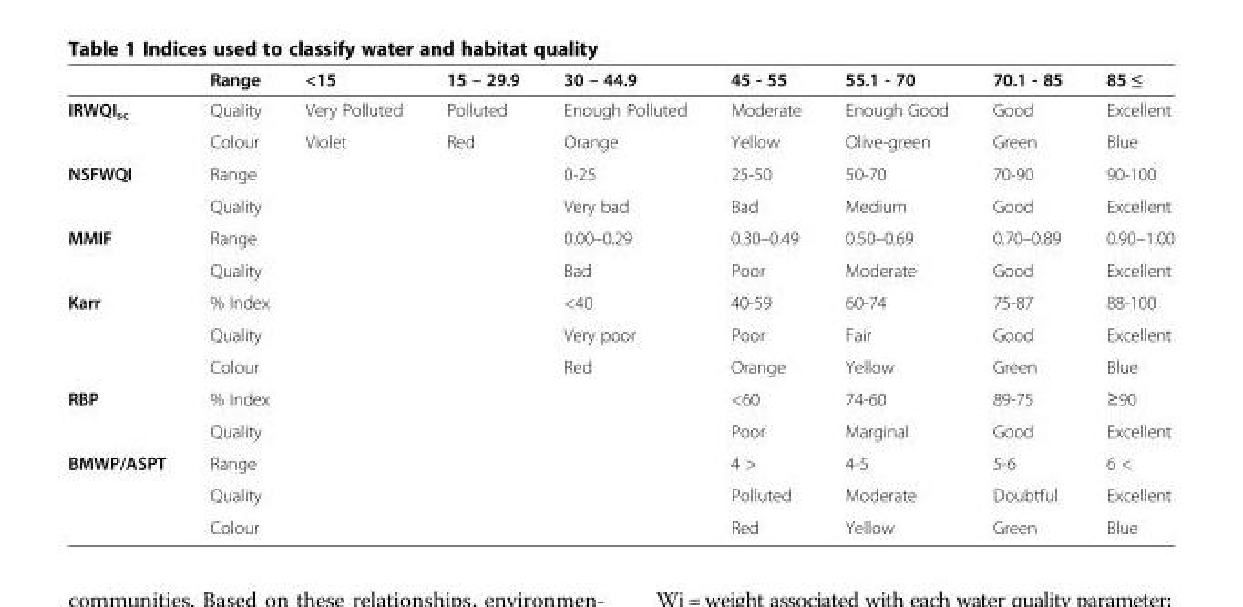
<table><thead><tr><td></td><td>Range</td><td>&lt;15</td><td>15 – 29.9</td><td>30 – 44.9</td><td>45 - 55</td><td>55.1 - 70</td><td>70.1 - 85</td><td>85 ≤</td></tr></thead><tbody><tr><td rowspan="2">IRWQI<sub>sc</sub></td><td>Quality</td><td>Very Polluted</td><td>Polluted</td><td>Enough Polluted</td><td>Moderate</td><td>Enough Good</td><td>Good</td><td>Excellent</td></tr><tr><td>Colour</td><td>Violet</td><td>Red</td><td>Orange</td><td>Yellow</td><td>Olive-green</td><td>Green</td><td>Blue</td></tr><tr><td rowspan="2">NSFWQI</td><td colspan="3">Range</td><td>0-25</td><td>25-50</td><td>50-70</td><td>70-90</td><td>90-100</td></tr><tr><td colspan="3">Quality</td><td>Very bad</td><td>Bad</td><td>Medium</td><td>Good</td><td>Excellent</td></tr><tr><td rowspan="2">MMIF</td><td colspan="3">Range</td><td>0.00–0.29</td><td>0.30–0.49</td><td>0.50–0.69</td><td>0.70–0.89</td><td>0.90–1.00</td></tr><tr><td colspan="3">Quality</td><td>Bad</td><td>Poor</td><td>Moderate</td><td>Good</td><td>Excellent</td></tr><tr><td rowspan="3">Karr</td><td colspan="3">% Index</td><td>&lt;40</td><td>40-59</td><td>60-74</td><td>75-87</td><td>88-100</td></tr><tr><td colspan="3">Quality</td><td>Very poor</td><td>Poor</td><td>Fair</td><td>Good</td><td>Excellent</td></tr><tr><td colspan="3">Colour</td><td>Red</td><td>Orange</td><td>Yellow</td><td>Green</td><td>Blue</td></tr><tr><td rowspan="2">RBP</td><td colspan="4">% Index</td><td>&lt;60</td><td>74-60</td><td>89-75</td><td>≥90</td></tr><tr><td colspan="4">Quality</td><td>Poor</td><td>Marginal</td><td>Good</td><td>Excellent</td></tr><tr><td rowspan="3">BMWP/ASPT</td><td colspan="4">Range</td><td>4 &gt;</td><td>4-5</td><td>5-6</td><td>6 &lt;</td></tr><tr><td colspan="4">Quality</td><td>Polluted</td><td>Moderate</td><td>Doubtful</td><td>Excellent</td></tr><tr><td colspan="4">Colour</td><td>Red</td><td>Yellow</td><td>Green</td><td>Blue</td></tr></tbody></table>